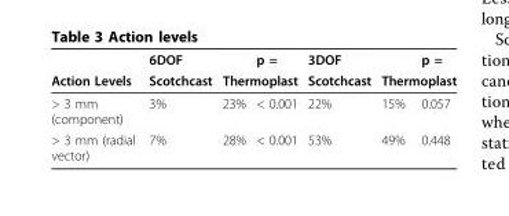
<table><thead><tr><td rowspan="2">Action Levels</td><td rowspan="2">6DOF Scotchcast</td><td></td><td>p =</td><td rowspan="2">3DOF Scotchcast</td><td></td><td>p =</td></tr><tr><td colspan="2">Thermoplast</td><td colspan="2">Thermoplast</td></tr></thead><tbody><tr><td>&gt; 3 mm (component)</td><td>3%</td><td>23%</td><td>&lt; 0.001</td><td>22%</td><td>15%</td><td>0.057</td></tr><tr><td>&gt; 3 mm (radial vector)</td><td>7%</td><td>28%</td><td>&lt; 0.001</td><td>53%</td><td>49%</td><td>0.448</td></tr></tbody></table>